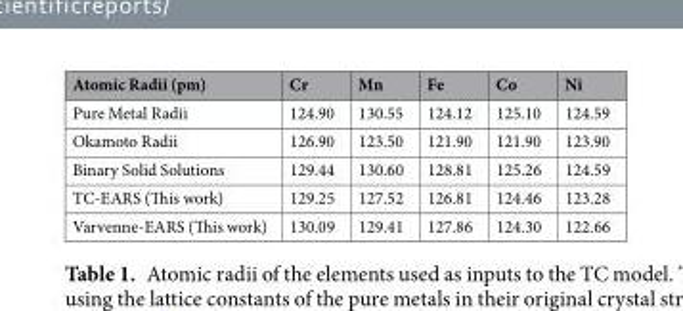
<table><thead><tr><td>Atomic Radii (pm)</td><td>Cr</td><td>Mn</td><td>Fe</td><td>Co</td><td>Ni</td></tr></thead><tbody><tr><td>Pure Metal Radii</td><td>124.90</td><td>130.55</td><td>124.12</td><td>125.10</td><td>124.59</td></tr><tr><td>Okamoto Radii</td><td>126.90</td><td>123.50</td><td>121.90</td><td>121.90</td><td>123.90</td></tr><tr><td>Binary Solid Solutions</td><td>129.44</td><td>130.60</td><td>128.81</td><td>125.26</td><td>124.59</td></tr><tr><td>TC-EARS (This work)</td><td>129.25</td><td>127.52</td><td>126.81</td><td>124.46</td><td>123.28</td></tr><tr><td>Varvenne-EARS (This work)</td><td>130.09</td><td>129.41</td><td>127.86</td><td>124.30</td><td>122.66</td></tr></tbody></table>